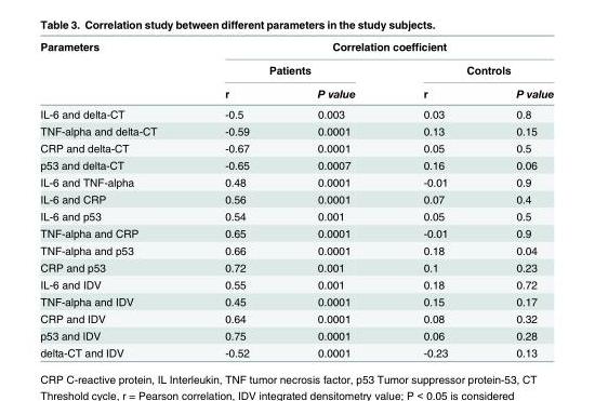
<table><thead><tr><td rowspan="3">Parameters</td><td colspan="4">Correlation coefficient</td></tr><tr><td colspan="2">Patients</td><td colspan="2">Controls</td></tr><tr><td>r</td><td>P value</td><td>r</td><td>P value</td></tr></thead><tbody><tr><td>IL-6 and delta-CT</td><td>-0.5</td><td>0.003</td><td>0.03</td><td>0.8</td></tr><tr><td>TNF-alpha and delta-CT</td><td>-0.59</td><td>0.0001</td><td>0.13</td><td>0.15</td></tr><tr><td>CRP and delta-CT</td><td>-0.67</td><td>0.0001</td><td>0.05</td><td>0.5</td></tr><tr><td>p53 and delta-CT</td><td>-0.65</td><td>0.0007</td><td>0.16</td><td>0.06</td></tr><tr><td>IL-6 and TNF-alpha</td><td>0.48</td><td>0.0001</td><td>-0.01</td><td>0.9</td></tr><tr><td>IL-6 and CRP</td><td>0.56</td><td>0.0001</td><td>0.07</td><td>0.4</td></tr><tr><td>IL-6 and p53</td><td>0.54</td><td>0.001</td><td>0.05</td><td>0.5</td></tr><tr><td>TNF-alpha and CRP</td><td>0.65</td><td>0.0001</td><td>-0.01</td><td>0.9</td></tr><tr><td>TNF-alpha and p53</td><td>0.66</td><td>0.0001</td><td>0.18</td><td>0.04</td></tr><tr><td>CRP and p53</td><td>0.72</td><td>0.001</td><td>0.1</td><td>0.23</td></tr><tr><td>IL-6 and IDV</td><td>0.55</td><td>0.001</td><td>0.18</td><td>0.72</td></tr><tr><td>TNF-alpha and IDV</td><td>0.45</td><td>0.0001</td><td>0.15</td><td>0.17</td></tr><tr><td>CRP and IDV</td><td>0.64</td><td>0.0001</td><td>0.08</td><td>0.32</td></tr><tr><td>p53 and IDV</td><td>0.75</td><td>0.0001</td><td>0.06</td><td>0.28</td></tr><tr><td>delta-CT and IDV</td><td>-0.52</td><td>0.0001</td><td>-0.23</td><td>0.13</td></tr></tbody></table>